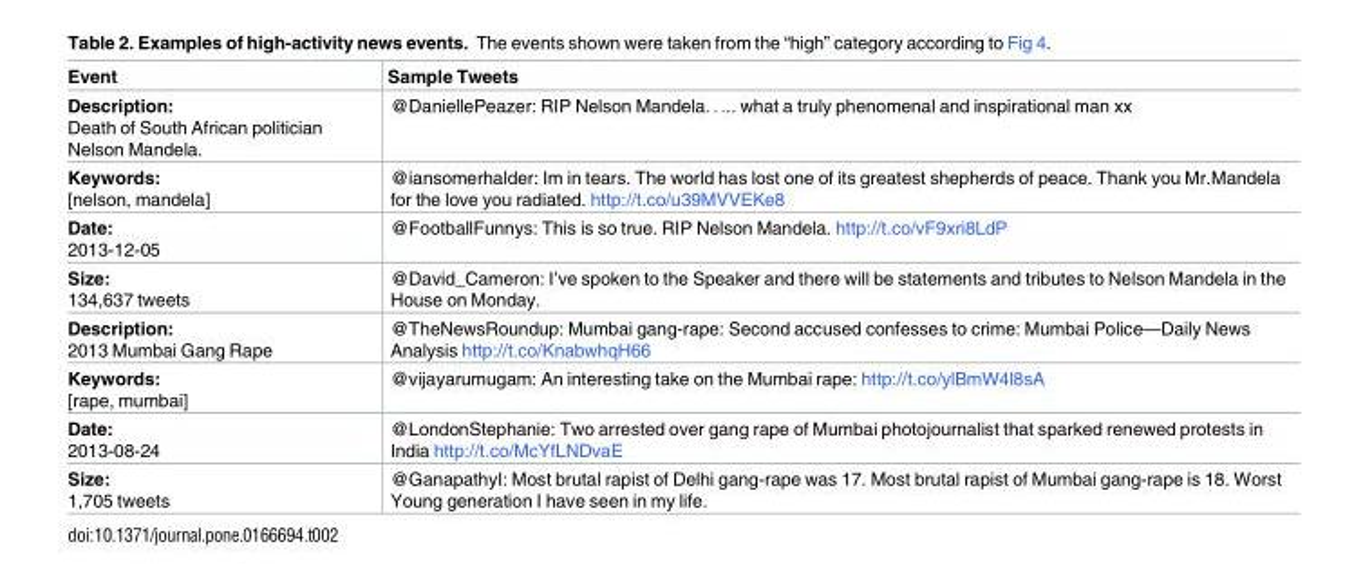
<table><thead><tr><td>Event</td><td>Sample Tweets</td></tr></thead><tbody><tr><td>Description: Death of South African politician Nelson Mandela.</td><td>@DaniellePeazer: RIP Nelson Mandela. . ... what a truly phenomenal and inspirational man xx</td></tr><tr><td>Keywords: [nelson, mandela]</td><td>@iansomerhalder: Im in tears. The world has lost one of its greatest shepherds of peace. Thank you Mr.Mandela for the love you radiated. http://t.co/u39MVVEKe8</td></tr><tr><td>Date: 2013-12-05</td><td>@FootballFunnys: This is so true. RIP Nelson Mandela. http://t.co/vF9xri8LdP</td></tr><tr><td>Size: 134,637 tweets</td><td>@David_Cameron: I’ve spoken to the Speaker and there will be statements and tributes to Nelson Mandela in the House on Monday.</td></tr><tr><td>Description: 2013 Mumbai Gang Rape</td><td>@TheNewsRoundup: Mumbai gang-rape: Second accused confesses to crime: Mumbai Police—Daily News Analysis http://t.co/KnabwhqH66</td></tr><tr><td>Keywords: [rape, mumbai]</td><td>@vijayarumugam: An interesting take on the Mumbai rape: http://t.co/ylBmW4l8sA</td></tr><tr><td>Date: 2013-08-24</td><td>@LondonStephanie: Two arrested over gang rape of Mumbai photojournalist that sparked renewed protests in India http://t.co/McYfLNDvaE</td></tr><tr><td>Size: 1,705 tweets</td><td>@GanapathyI: Most brutal rapist of Delhi gang-rape was 17. Most brutal rapist of Mumbai gang-rape is 18. Worst Young generation I have seen in my life.</td></tr></tbody></table>